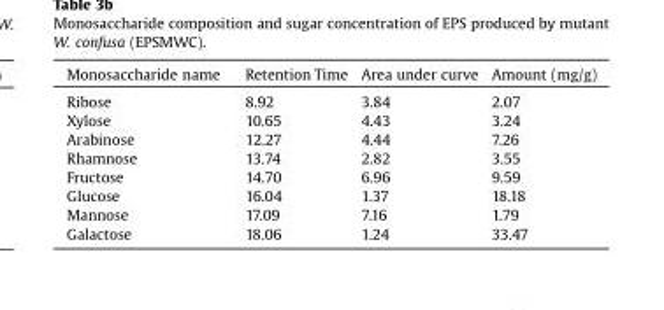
<table><thead><tr><td>Monosaccharide name</td><td>Retention Time</td><td>Area under curve</td><td>Amount (mg/g)</td></tr></thead><tbody><tr><td>Ribose</td><td>8.92</td><td>3.84</td><td>2.07</td></tr><tr><td>Xylose</td><td>10.65</td><td>4.43</td><td>3.24</td></tr><tr><td>Arabinose</td><td>12.27</td><td>4.44</td><td>7.26</td></tr><tr><td>Rhamnose</td><td>13.74</td><td>2.82</td><td>3.55</td></tr><tr><td>Fructose</td><td>14.70</td><td>6.96</td><td>9.59</td></tr><tr><td>Glucose</td><td>16.04</td><td>1.37</td><td>18.18</td></tr><tr><td>Mannose</td><td>17.09</td><td>7.16</td><td>1.79</td></tr><tr><td>Galactose</td><td>18.06</td><td>1.24</td><td>33.47</td></tr></tbody></table>